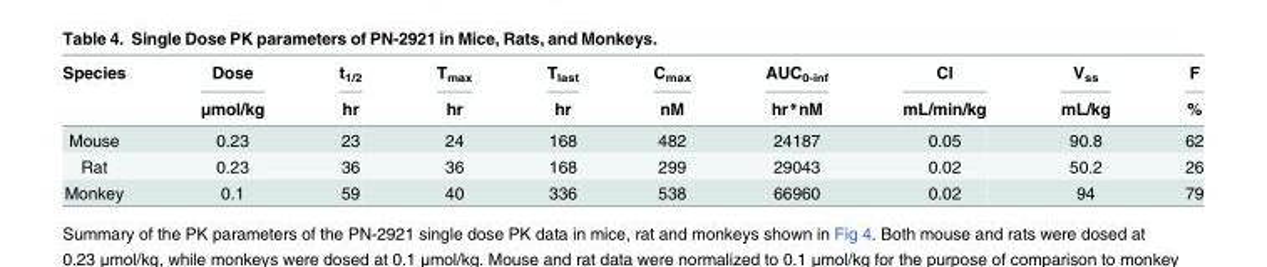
<table><thead><tr><td rowspan="2">Species</td><td rowspan="2">Dose μmol/kg</td><td rowspan="2">t<sub>1/2</sub> hr</td><td rowspan="2">T<sub>max</sub> hr</td><td rowspan="2">T<sub>last</sub> hr</td><td rowspan="2">C<sub>max</sub> nM</td><td rowspan="2">AUC<sub>0-inf</sub> hr*nM</td><td rowspan="2">Cl mL/min/kg</td><td rowspan="2">V<sub>ss</sub> mL/kg</td><td rowspan="2">F %</td></tr><tr></tr></thead><tbody><tr><td>Mouse</td><td>0.23</td><td>23</td><td>24</td><td>168</td><td>482</td><td>24187</td><td>0.05</td><td>90.8</td><td>62</td></tr><tr><td>Rat</td><td>0.23</td><td>36</td><td>36</td><td>168</td><td>299</td><td>29043</td><td>0.02</td><td>50.2</td><td>26</td></tr><tr><td>Monkey</td><td>0.1</td><td>59</td><td>40</td><td>336</td><td>538</td><td>66960</td><td>0.02</td><td>94</td><td>79</td></tr></tbody></table>